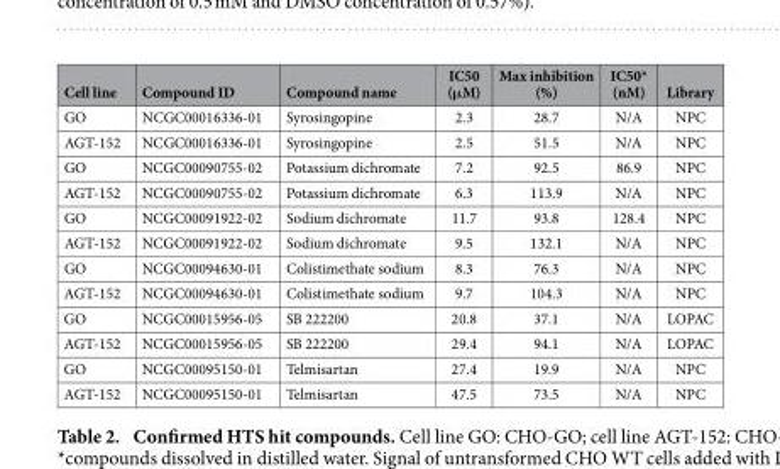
<table><thead><tr><td>Cell line</td><td>Compound ID</td><td>Compound name</td><td>IC50 (μM)</td><td>Max inhibition (%)</td><td>IC50* (nM)</td><td>Library</td></tr></thead><tbody><tr><td>GO</td><td>NCGC00016336-01</td><td>Syrosingopine</td><td>2.3</td><td>28.7</td><td>N/A</td><td>NPC</td></tr><tr><td>AGT-152</td><td>NCGC00016336-01</td><td>Syrosingopine</td><td>2.5</td><td>51.5</td><td>N/A</td><td>NPC</td></tr><tr><td>GO</td><td>NCGC00090755-02</td><td>Potassium dichromate</td><td>7.2</td><td>92.5</td><td>86.9</td><td>NPC</td></tr><tr><td>AGT-152</td><td>NCGC00090755-02</td><td>Potassium dichromate</td><td>6.3</td><td>113.9</td><td>N/A</td><td>NPC</td></tr><tr><td>GO</td><td>NCGC00091922-02</td><td>Sodium dichromate</td><td>11.7</td><td>93.8</td><td>128.4</td><td>NPC</td></tr><tr><td>AGT-152</td><td>NCGC00091922-02</td><td>Sodium dichromate</td><td>9.5</td><td>132.1</td><td>N/A</td><td>NPC</td></tr><tr><td>GO</td><td>NCGC00094630-01</td><td>Colistimethate sodium</td><td>8.3</td><td>76.3</td><td>N/A</td><td>NPC</td></tr><tr><td>AGT-152</td><td>NCGC00094630-01</td><td>Colistimethate sodium</td><td>9.7</td><td>104.3</td><td>N/A</td><td>NPC</td></tr><tr><td>GO</td><td>NCGC00015956-05</td><td>SB 222200</td><td>20.8</td><td>37.1</td><td>N/A</td><td>LOPAC</td></tr><tr><td>AGT-152</td><td>NCGC00015956-05</td><td>SB 222200</td><td>29.4</td><td>94.1</td><td>N/A</td><td>LOPAC</td></tr><tr><td>GO</td><td>NCGC00095150-01</td><td>Telmisartan</td><td>27.4</td><td>19.9</td><td>N/A</td><td>NPC</td></tr><tr><td>AGT-152</td><td>NCGC00095150-01</td><td>Telmisartan</td><td>47.5</td><td>73.5</td><td>N/A</td><td>NPC</td></tr></tbody></table>